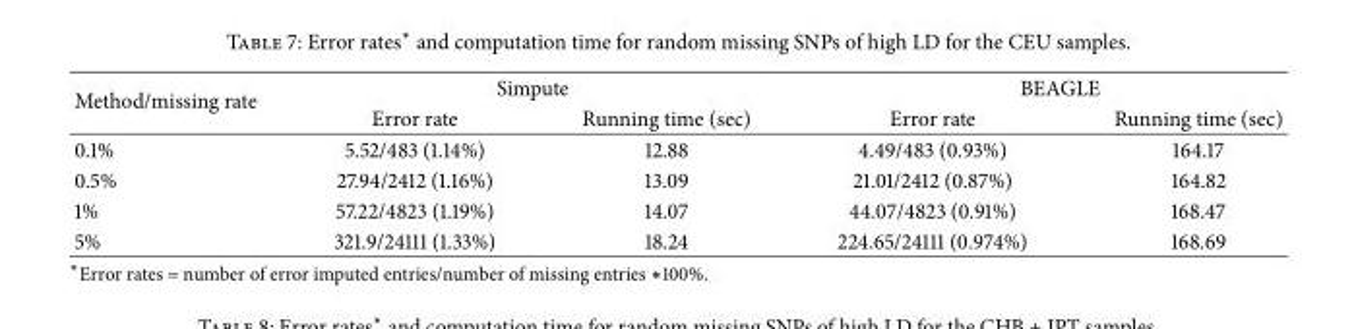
<table><thead><tr><td rowspan="2">Method/missing rate</td><td colspan="2">Simpute</td><td colspan="2">BEAGLE</td></tr><tr><td>Error rate</td><td>Running time (sec)</td><td>Error rate</td><td>Running time (sec)</td></tr></thead><tbody><tr><td>0.1%</td><td>5.52/483 (1.14%)</td><td>12.88</td><td>4.49/483 (0.93%)</td><td>164.17</td></tr><tr><td>0.5%</td><td>27.94/2412 (1.16%)</td><td>13.09</td><td>21.01/2412 (0.87%)</td><td>164.82</td></tr><tr><td>1%</td><td>57.22/4823 (1.19%)</td><td>14.07</td><td>44.07/4823 (0.91%)</td><td>168.47</td></tr><tr><td>5%</td><td>321.9/24111 (1.33%)</td><td>18.24</td><td>224.65/24111 (0.974%)</td><td>168.69</td></tr></tbody></table>